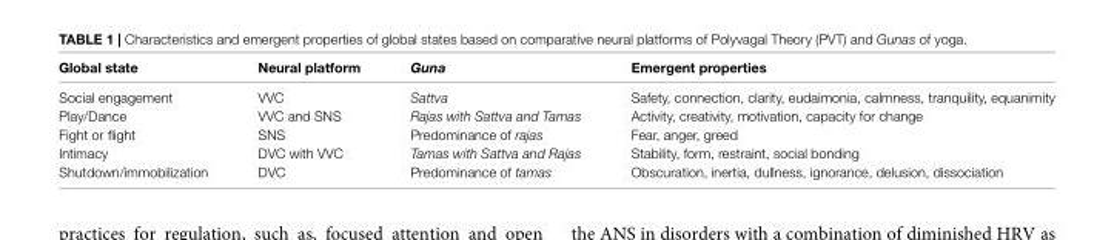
<table><thead><tr><td>Global state</td><td>Neural platform</td><td>Guna</td><td>Emergent properties</td></tr></thead><tbody><tr><td>Social engagement</td><td>VVC</td><td>Sattva</td><td>Safety, connection, clarity, eudaimonia, calmness, tranquility, equanimity</td></tr><tr><td>Play/Dance</td><td>VVC and SNS</td><td>Rajas with Sattva and Tamas</td><td>Activity, creativity, motivation, capacity for change</td></tr><tr><td>Fight or flight</td><td>SNS</td><td>Predominance of rajas</td><td>Fear, anger, greed</td></tr><tr><td>Intimacy</td><td>DVC with VVC</td><td>Tamas with Sattva and Rajas</td><td>Stability, form, restraint, social bonding</td></tr><tr><td>Shutdown/immobilization</td><td>DVC</td><td>Predominance of tamas</td><td>Obscuration, inertia, dullness, ignorance, delusion, dissociation</td></tr></tbody></table>